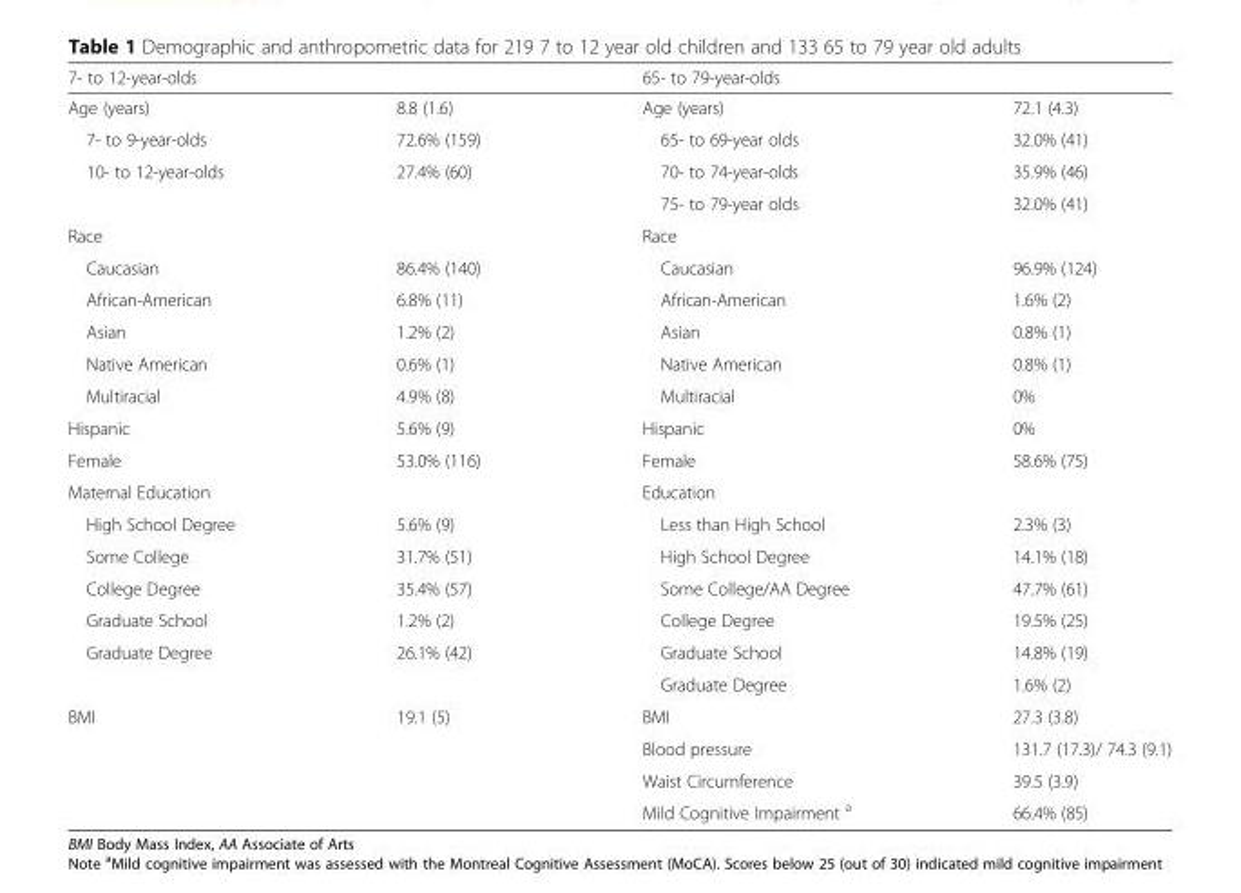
<table><thead><tr><td colspan="2">7- to 12-year-olds</td><td colspan="2">65- to 79-year-olds</td></tr><tr><td>Age (years)</td><td>8.8 (1.6)</td><td>Age (years)</td><td>72.1 (4.3)</td></tr></thead><tbody><tr><td>7- to 9-year-olds</td><td>72.6% (159)</td><td>65- to 69-year olds</td><td>32.0% (41)</td></tr><tr><td rowspan="2">10- to 12-year-olds</td><td rowspan="2">27.4% (60)</td><td>70- to 74-year-olds</td><td>35.9% (46)</td></tr><tr><td>75- to 79-year olds</td><td>32.0% (41)</td></tr><tr><td colspan="2">Race</td><td colspan="2">Race</td></tr><tr><td>Caucasian</td><td>86.4% (140)</td><td>Caucasian</td><td>96.9% (124)</td></tr><tr><td>African-American</td><td>6.8% (11)</td><td>African-American</td><td>1.6% (2)</td></tr><tr><td>Asian</td><td>1.2% (2)</td><td>Asian</td><td>0.8% (1)</td></tr><tr><td>Native American</td><td>0.6% (1)</td><td>Native American</td><td>0.8% (1)</td></tr><tr><td>Multiracial</td><td>4.9% (8)</td><td>Multiracial</td><td>0%</td></tr><tr><td>Hispanic</td><td>5.6% (9)</td><td>Hispanic</td><td>0%</td></tr><tr><td>Female</td><td>53.0% (116)</td><td>Female</td><td>58.6% (75)</td></tr><tr><td colspan="2">Maternal Education</td><td colspan="2">Education</td></tr><tr><td>High School Degree</td><td>5.6% (9)</td><td>Less than High School</td><td>2.3% (3)</td></tr><tr><td>Some College</td><td>31.7% (51)</td><td>High School Degree</td><td>14.1% (18)</td></tr><tr><td>College Degree</td><td>35.4% (57)</td><td>Some College/AA Degree</td><td>47.7% (61)</td></tr><tr><td>Graduate School</td><td>1.2% (2)</td><td>College Degree</td><td>19.5% (25)</td></tr><tr><td rowspan="2">Graduate Degree</td><td>26.1% (42)</td><td>Graduate School</td><td>14.8% (19)</td></tr><tr><td></td><td>Graduate Degree</td><td>1.6% (2)</td></tr><tr><td rowspan="4">BMI</td><td>19.1 (5)</td><td>BMI</td><td>27.3 (3.8)</td></tr><tr><td></td><td>Blood pressure</td><td>131.7 (17.3)/ 74.3 (9.1)</td></tr><tr><td></td><td>Waist Circumference</td><td>39.5 (3.9)</td></tr><tr><td></td><td>Mild Cognitive Impairment <sup>a</sup></td><td>66.4% (85)</td></tr></tbody></table>